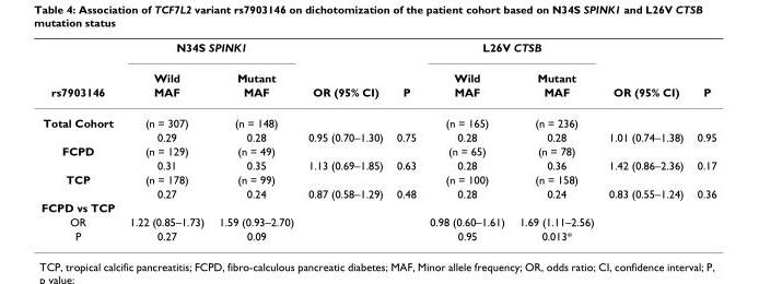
<table><thead><tr><td rowspan="3">rs7903146</td><td colspan="2">N34S SPINK1</td><td rowspan="3">OR (95% CI)</td><td rowspan="3">P</td><td colspan="2">L26V CTSB</td><td rowspan="3">OR (95% CI)</td><td rowspan="3">P</td></tr><tr><td rowspan="2">Wild MAF</td><td rowspan="2">Mutant MAF</td><td rowspan="2">Wild MAF</td><td rowspan="2">Mutant MAF</td></tr><tr></tr></thead><tbody><tr><td rowspan="2">Total Cohort</td><td>(n = 307)</td><td>(n = 148)</td><td></td><td></td><td>(n = 165)</td><td>(n = 236)</td><td></td><td></td></tr><tr><td>0.29</td><td>0.28</td><td>0.95 (0.70–1.30)</td><td>0.75</td><td>0.28</td><td>0.28</td><td>1.01 (0.74–1.38)</td><td>0.95</td></tr><tr><td rowspan="2">FCPD</td><td>(n = 129)</td><td>(n = 49)</td><td></td><td></td><td>(n = 65)</td><td>(n = 78)</td><td></td><td></td></tr><tr><td>0.31</td><td>0.35</td><td>1.13 (0.69–1.85)</td><td>0.63</td><td>0.28</td><td>0.36</td><td>1.42 (0.86–2.36)</td><td>0.17</td></tr><tr><td rowspan="2">TCP</td><td>(n = 178)</td><td>(n = 99)</td><td></td><td></td><td>(n = 100)</td><td>(n = 158)</td><td></td><td></td></tr><tr><td>0.27</td><td>0.24</td><td>0.87 (0.58–1.29)</td><td>0.48</td><td>0.28</td><td>0.24</td><td>0.83 (0.55–1.24)</td><td>0.36</td></tr><tr><td colspan="9">FCPD vs TCP</td></tr><tr><td>OR</td><td>1.22 (0.85–1.73)</td><td>1.59 (0.93–2.70)</td><td></td><td></td><td>0.98 (0.60–1.61)</td><td>1.69 (1.11–2.56)</td><td></td><td></td></tr><tr><td>P</td><td>0.27</td><td>0.09</td><td></td><td></td><td>0.95</td><td>0.013*</td><td></td><td></td></tr></tbody></table>